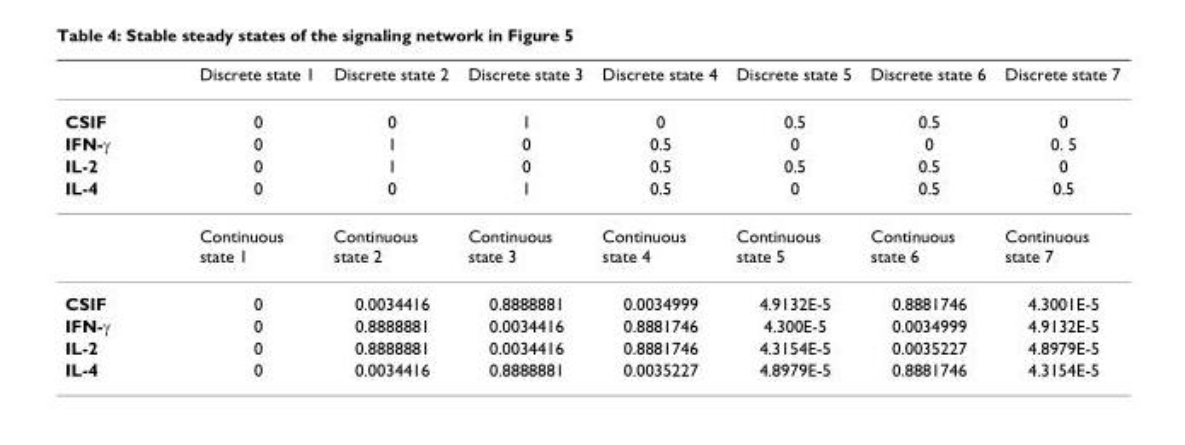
<table><thead><tr><td></td><td>Discrete state 1</td><td>Discrete state 2</td><td>Discrete state 3</td><td>Discrete state 4</td><td>Discrete state 5</td><td>Discrete state 6</td><td>Discrete state 7</td></tr></thead><tbody><tr><td>CSIF</td><td>0</td><td>0</td><td>1</td><td>0</td><td>0.5</td><td>0.5</td><td>0</td></tr><tr><td>IFN-γ</td><td>0</td><td>1</td><td>0</td><td>0.5</td><td>0</td><td>0</td><td>0. 5</td></tr><tr><td>IL-2</td><td>0</td><td>1</td><td>0</td><td>0.5</td><td>0.5</td><td>0.5</td><td>0</td></tr><tr><td rowspan="2">IL-4</td><td>0</td><td>0</td><td>1</td><td>0.5</td><td>0</td><td>0.5</td><td>0.5</td></tr><tr><td>Continuous state 1</td><td>Continuous state 2</td><td>Continuous state 3</td><td>Continuous state 4</td><td>Continuous state 5</td><td>Continuous state 6</td><td>Continuous state 7</td></tr><tr><td>CSIF</td><td>0</td><td>0.0034416</td><td>0.8888881</td><td>0.0034999</td><td>4.9132E-5</td><td>0.8881746</td><td>4.3001E-5</td></tr><tr><td>IFN-γ</td><td>0</td><td>0.8888881</td><td>0.0034416</td><td>0.8881746</td><td>4.300E-5</td><td>0.0034999</td><td>4.9132E-5</td></tr><tr><td>IL-2</td><td>0</td><td>0.8888881</td><td>0.0034416</td><td>0.8881746</td><td>4.3154E-5</td><td>0.0035227</td><td>4.8979E-5</td></tr><tr><td>IL-4</td><td>0</td><td>0.0034416</td><td>0.8888881</td><td>0.0035227</td><td>4.8979E-5</td><td>0.8881746</td><td>4.3154E-5</td></tr></tbody></table>